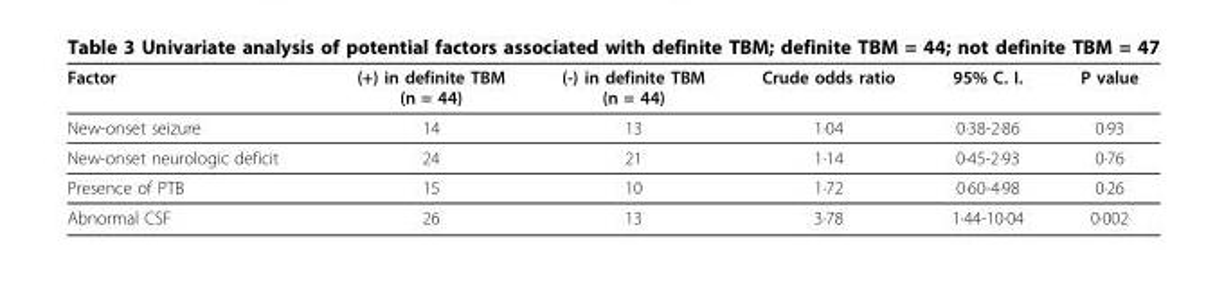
<table><thead><tr><td>Factor</td><td>(+) in definite TBM (n = 44)</td><td>(-) in definite TBM (n = 44)</td><td>Crude odds ratio</td><td>95% C. I.</td><td>P value</td></tr></thead><tbody><tr><td>New-onset seizure</td><td>14</td><td>13</td><td>1·04</td><td>0·38-2·86</td><td>0·93</td></tr><tr><td>New-onset neurologic deficit</td><td>24</td><td>21</td><td>1·14</td><td>0·45-2·93</td><td>0·76</td></tr><tr><td>Presence of PTB</td><td>15</td><td>10</td><td>1·72</td><td>0·60-4·98</td><td>0·26</td></tr><tr><td>Abnormal CSF</td><td>26</td><td>13</td><td>3·78</td><td>1·44-10·04</td><td>0·002</td></tr></tbody></table>